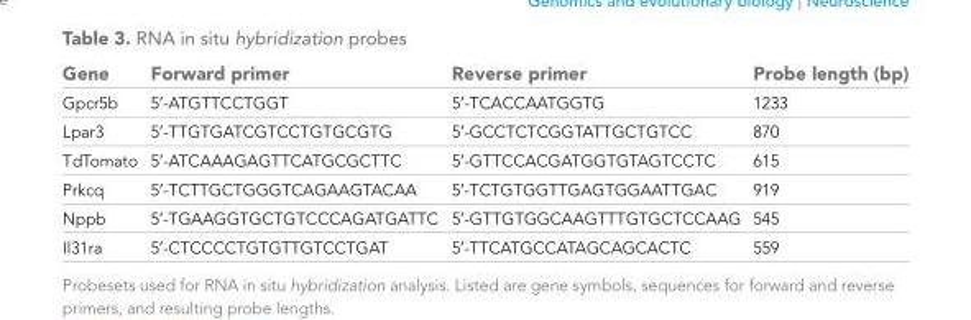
<table><thead><tr><td>Gene</td><td>Forward primer</td><td>Reverse primer</td><td>Probe length (bp)</td></tr></thead><tbody><tr><td>Gpcr5b</td><td>5′-ATGTTCCTGGT</td><td>5′-TCACCAATGGTG</td><td>1233</td></tr><tr><td>Lpar3</td><td>5′-TTGTGATCGTCCTGTGCGTG</td><td>5′-GCCTCTCGGTATTGCTGTCC</td><td>870</td></tr><tr><td>TdTomato</td><td>5′-ATCAAAGAGTTCATGCGCTTC</td><td>5′-GTTCCACGATGGTGTAGTCCTC</td><td>615</td></tr><tr><td>Prkcq</td><td>5′-TCTTGCTGGGTCAGAAGTACAA</td><td>5′-TCTGTGGTTGAGTGGAATTGAC</td><td>919</td></tr><tr><td>Nppb</td><td>5′-TGAAGGTGCTGTCCCAGATGATTC</td><td>5′-GTTGTGGCAAGTTTGTGCTCCAAG</td><td>545</td></tr><tr><td>Il31ra</td><td>5′-CTCCCCTGTGTTGTCCTGAT</td><td>5′-TTCATGCCATAGCAGCACTC</td><td>559</td></tr></tbody></table>